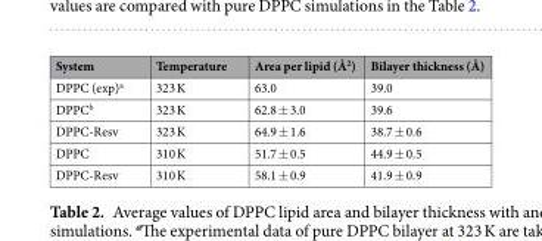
<table><thead><tr><td>System</td><td>Temperature</td><td>Area per lipid (Å<sup>2</sup>)</td><td>Bilayer thickness (Å)</td></tr></thead><tbody><tr><td>DPPC (exp)<sup>a</sup></td><td>323 K</td><td>63.0</td><td>39.0</td></tr><tr><td>DPPC<sup>b</sup></td><td>323 K</td><td>62.8 ± 3.0</td><td>39.6</td></tr><tr><td>DPPC-Resv</td><td>323 K</td><td>64.9 ± 1.6</td><td>38.7 ± 0.6</td></tr><tr><td>DPPC</td><td>310 K</td><td>51.7 ± 0.5</td><td>44.9 ± 0.5</td></tr><tr><td>DPPC-Resv</td><td>310 K</td><td>58.1 ± 0.9</td><td>41.9 ± 0.9</td></tr></tbody></table>